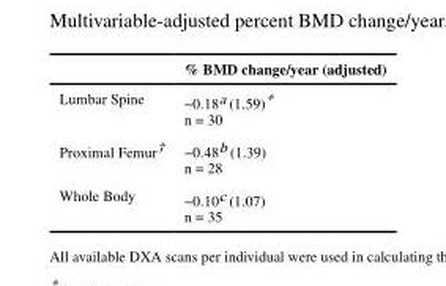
<table><thead><tr><td></td><td>% BMD change/year (adjusted)</td></tr></thead><tbody><tr><td>Lumbar Spine</td><td>−0.18<sup>a</sup> (1.59)* n = 30</td></tr><tr><td>Proximal Femur†</td><td>−0.48<sup>b</sup> (1.39) n = 28</td></tr><tr><td>Whole Body</td><td>−0.10<sup>c</sup> (1.07) n = 35</td></tr></tbody></table>